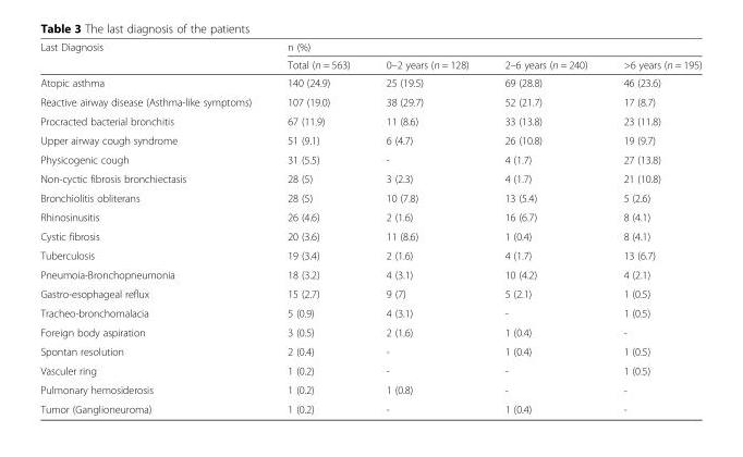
<table><thead><tr><td rowspan="2">Last Diagnosis</td><td colspan="4">n (%)</td></tr><tr><td>Total (n = 563)</td><td>0–2 years (n = 128)</td><td>2–6 years (n = 240)</td><td>&gt;6 years (n = 195)</td></tr></thead><tbody><tr><td>Atopic asthma</td><td>140 (24.9)</td><td>25 (19.5)</td><td>69 (28.8)</td><td>46 (23.6)</td></tr><tr><td>Reactive airway disease (Asthma-like symptoms)</td><td>107 (19.0)</td><td>38 (29.7)</td><td>52 (21.7)</td><td>17 (8.7)</td></tr><tr><td>Procracted bacterial bronchitis</td><td>67 (11.9)</td><td>11 (8.6)</td><td>33 (13.8)</td><td>23 (11.8)</td></tr><tr><td>Upper airway cough syndrome</td><td>51 (9.1)</td><td>6 (4.7)</td><td>26 (10.8)</td><td>19 (9.7)</td></tr><tr><td>Physicogenic cough</td><td>31 (5.5)</td><td>-</td><td>4 (1.7)</td><td>27 (13.8)</td></tr><tr><td>Non-cyctic fibrosis bronchiectasis</td><td>28 (5)</td><td>3 (2.3)</td><td>4 (1.7)</td><td>21 (10.8)</td></tr><tr><td>Bronchiolitis obliterans</td><td>28 (5)</td><td>10 (7.8)</td><td>13 (5.4)</td><td>5 (2.6)</td></tr><tr><td>Rhinosinusitis</td><td>26 (4.6)</td><td>2 (1.6)</td><td>16 (6.7)</td><td>8 (4.1)</td></tr><tr><td>Cystic fibrosis</td><td>20 (3.6)</td><td>11 (8.6)</td><td>1 (0.4)</td><td>8 (4.1)</td></tr><tr><td>Tuberculosis</td><td>19 (3.4)</td><td>2 (1.6)</td><td>4 (1.7)</td><td>13 (6.7)</td></tr><tr><td>Pneumoia-Bronchopneumonia</td><td>18 (3.2)</td><td>4 (3.1)</td><td>10 (4.2)</td><td>4 (2.1)</td></tr><tr><td>Gastro-esophageal reflux</td><td>15 (2.7)</td><td>9 (7)</td><td>5 (2.1)</td><td>1 (0.5)</td></tr><tr><td>Tracheo-bronchomalacia</td><td>5 (0.9)</td><td>4 (3.1)</td><td>-</td><td>1 (0.5)</td></tr><tr><td>Foreign body aspiration</td><td>3 (0.5)</td><td>2 (1.6)</td><td>1 (0.4)</td><td>-</td></tr><tr><td>Spontan resolution</td><td>2 (0.4)</td><td>-</td><td>1 (0.4)</td><td>1 (0.5)</td></tr><tr><td>Vasculer ring</td><td>1 (0.2)</td><td>-</td><td>-</td><td>1 (0.5)</td></tr><tr><td>Pulmonary hemosiderosis</td><td>1 (0.2)</td><td>1 (0.8)</td><td>-</td><td>-</td></tr><tr><td>Tumor (Ganglioneuroma)</td><td>1 (0.2)</td><td>-</td><td>1 (0.4)</td><td>-</td></tr></tbody></table>